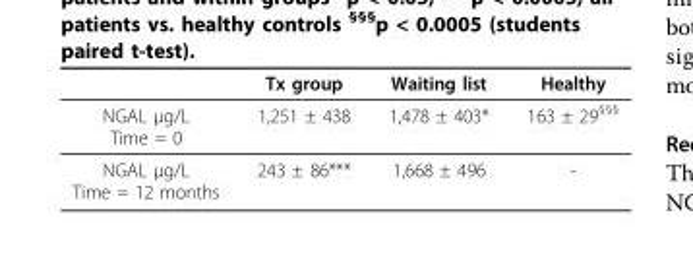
<table><thead><tr><td></td><td>Tx group</td><td>Waiting list</td><td>Healthy</td></tr></thead><tbody><tr><td>NGAL μg/L Time = 0</td><td>1,251 ± 438</td><td>1,478 ± 403*</td><td>163 ± 29<sup>§§§</sup></td></tr><tr><td>NGAL μg/L Time = 12 months</td><td>243 ± 86***</td><td>1,668 ± 496</td><td>-</td></tr></tbody></table>